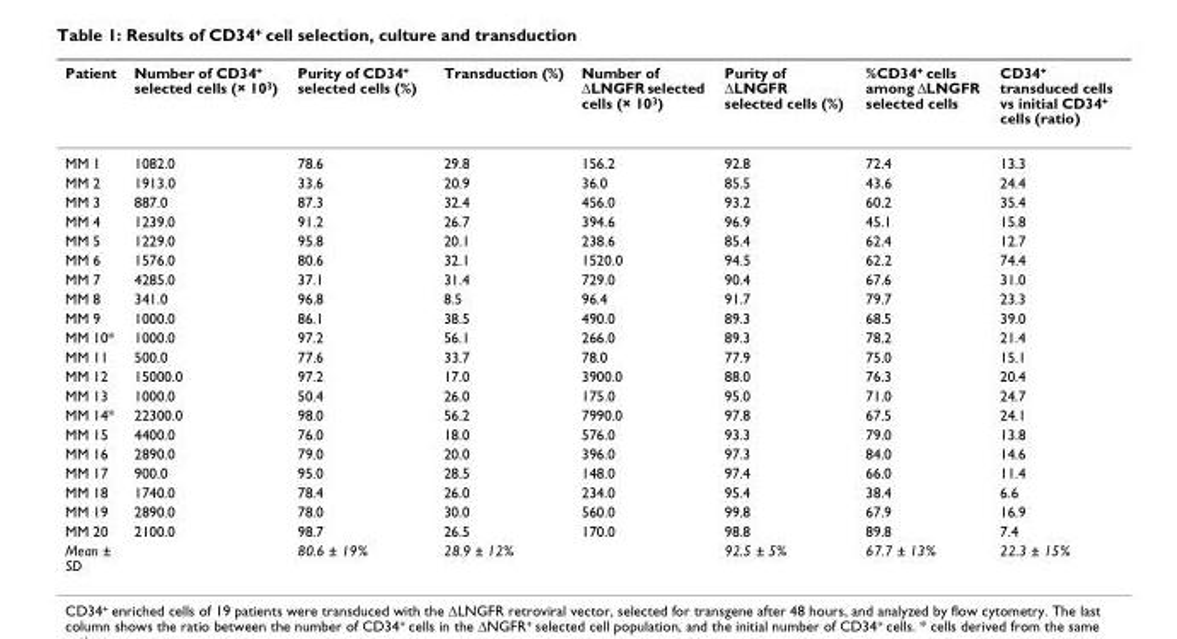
<table><thead><tr><td>Patient</td><td>Number of CD34<sup>+</sup> selected cells (× 10<sup>3</sup>)</td><td>Purity of CD34<sup>+</sup> selected cells (%)</td><td>Transduction (%)</td><td>Number of ΔLNGFR selected cells (× 10<sup>3</sup>)</td><td>Purity of ΔLNGFR selected cells (%)</td><td>%CD34<sup>+</sup> cells among ΔLNGFR selected cells</td><td>CD34<sup>+</sup> transduced cells vs initial CD34<sup>+</sup> cells (ratio)</td></tr></thead><tbody><tr><td>MM 1</td><td>1082.0</td><td>78.6</td><td>29.8</td><td>156.2</td><td>92.8</td><td>72.4</td><td>13.3</td></tr><tr><td>MM 2</td><td>1913.0</td><td>33.6</td><td>20.9</td><td>36.0</td><td>85.5</td><td>43.6</td><td>24.4</td></tr><tr><td>MM 3</td><td>887.0</td><td>87.3</td><td>32.4</td><td>456.0</td><td>93.2</td><td>60.2</td><td>35.4</td></tr><tr><td>MM 4</td><td>1239.0</td><td>91.2</td><td>26.7</td><td>394.6</td><td>96.9</td><td>45.1</td><td>15.8</td></tr><tr><td>MM 5</td><td>1229.0</td><td>95.8</td><td>20.1</td><td>238.6</td><td>85.4</td><td>62.4</td><td>12.7</td></tr><tr><td>MM 6</td><td>1576.0</td><td>80.6</td><td>32.1</td><td>1520.0</td><td>94.5</td><td>62.2</td><td>74.4</td></tr><tr><td>MM 7</td><td>4285.0</td><td>37.1</td><td>31.4</td><td>729.0</td><td>90.4</td><td>67.6</td><td>31.0</td></tr><tr><td>MM 8</td><td>341.0</td><td>96.8</td><td>8.5</td><td>96.4</td><td>91.7</td><td>79.7</td><td>23.3</td></tr><tr><td>MM 9</td><td>1000.0</td><td>86.1</td><td>38.5</td><td>490.0</td><td>89.3</td><td>68.5</td><td>39.0</td></tr><tr><td>MM 10*</td><td>1000.0</td><td>97.2</td><td>56.1</td><td>266.0</td><td>89.3</td><td>78.2</td><td>21.4</td></tr><tr><td>MM 11</td><td>500.0</td><td>77.6</td><td>33.7</td><td>78.0</td><td>77.9</td><td>75.0</td><td>15.1</td></tr><tr><td>MM 12</td><td>15000.0</td><td>97.2</td><td>17.0</td><td>3900.0</td><td>88.0</td><td>76.3</td><td>20.4</td></tr><tr><td>MM 13</td><td>1000.0</td><td>50.4</td><td>26.0</td><td>175.0</td><td>95.0</td><td>71.0</td><td>24.7</td></tr><tr><td>MM 14*</td><td>22300.0</td><td>98.0</td><td>56.2</td><td>7990.0</td><td>97.8</td><td>67.5</td><td>24.1</td></tr><tr><td>MM 15</td><td>4400.0</td><td>76.0</td><td>18.0</td><td>576.0</td><td>93.3</td><td>79.0</td><td>13.8</td></tr><tr><td>MM 16</td><td>2890.0</td><td>79.0</td><td>20.0</td><td>396.0</td><td>97.3</td><td>84.0</td><td>14.6</td></tr><tr><td>MM 17</td><td>900.0</td><td>95.0</td><td>28.5</td><td>148.0</td><td>97.4</td><td>66.0</td><td>11.4</td></tr><tr><td>MM 18</td><td>1740.0</td><td>78.4</td><td>26.0</td><td>234.0</td><td>95.4</td><td>38.4</td><td>6.6</td></tr><tr><td>MM 19</td><td>2890.0</td><td>78.0</td><td>30.0</td><td>560.0</td><td>99.8</td><td>67.9</td><td>16.9</td></tr><tr><td>MM 20</td><td>2100.0</td><td>98.7</td><td>26.5</td><td>170.0</td><td>98.8</td><td>89.8</td><td>7.4</td></tr><tr><td>Mean ± SD</td><td></td><td>80.6 ± 19%</td><td>28.9 ± 12%</td><td></td><td>92.5 ± 5%</td><td>67.7 ± 13%</td><td>22.3 ± 15%</td></tr></tbody></table>